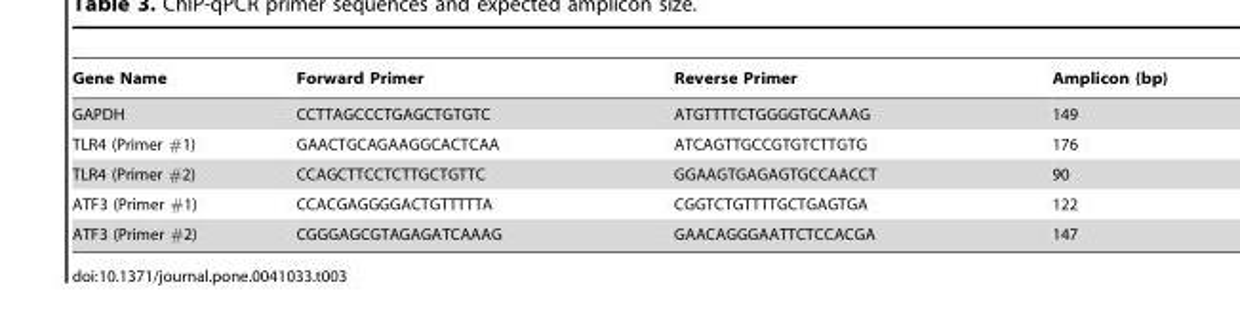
<table><thead><tr><td>Gene Name</td><td>Forward Primer</td><td>Reverse Primer</td><td>Amplicon (bp)</td></tr></thead><tbody><tr><td>GAPDH</td><td>CCTTAGCCCTGAGCTGTGTC</td><td>ATGTTTTCTGGGGTGCAAAG</td><td>149</td></tr><tr><td>TLR4 (Primer #1)</td><td>GAACTGCAGAAGGCACTCAA</td><td>ATCAGTTGCCGTGTCTTGTG</td><td>176</td></tr><tr><td>TLR4 (Primer #2)</td><td>CCAGCTTCCTCTTGCTGTTC</td><td>GGAAGTGAGAGTGCCAACCT</td><td>90</td></tr><tr><td>ATF3 (Primer #1)</td><td>CCACGAGGGGACTGTTTTTA</td><td>CGGTCTGTTTTGCTGAGTGA</td><td>122</td></tr><tr><td>ATF3 (Primer #2)</td><td>CGGGAGCGTAGAGATCAAAG</td><td>GAACAGGGAATTCTCCACGA</td><td>147</td></tr></tbody></table>